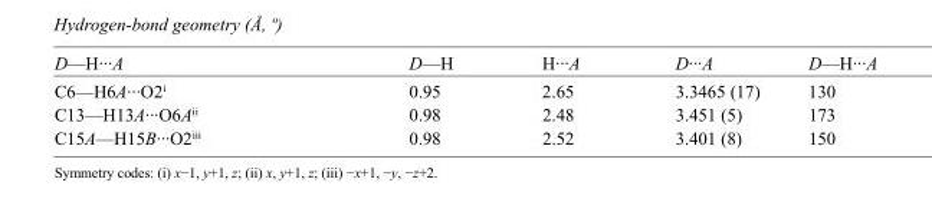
<table><tbody><tr><td>D—H···A</td><td>D—H</td><td>H···A</td><td>D···A</td><td>D—H···A</td></tr><tr><td>C6—H6A···O2<sup>i</sup></td><td>0.95</td><td>2.65</td><td>3.3465 (17)</td><td>130</td></tr><tr><td>C13—H13A···O6A<sup>ii</sup></td><td>0.98</td><td>2.48</td><td>3.451 (5)</td><td>173</td></tr><tr><td>C15A—H15B···O2<sup>iii</sup></td><td>0.98</td><td>2.52</td><td>3.401 (8)</td><td>150</td></tr></tbody></table>